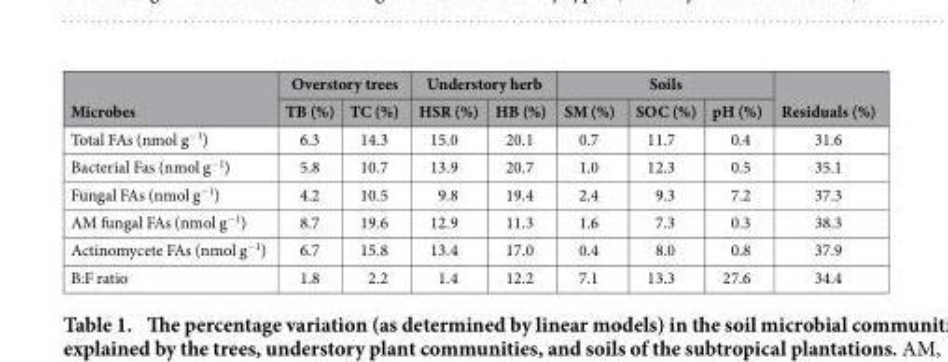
<table><thead><tr><td rowspan="2">Microbes</td><td colspan="2">Overstory trees</td><td colspan="2">Understory herb</td><td colspan="3">Soils</td><td rowspan="2">Residuals (%)</td></tr><tr><td>TB (%)</td><td>TC (%)</td><td>HSR (%)</td><td>HB (%)</td><td>SM (%)</td><td>SOC (%)</td><td>pH (%)</td></tr></thead><tbody><tr><td>Total FAs (nmol g<sup>−1</sup>)</td><td>6.3</td><td>14.3</td><td>15.0</td><td>20.1</td><td>0.7</td><td>11.7</td><td>0.4</td><td>31.6</td></tr><tr><td>Bacterial Fas (nmol g<sup>−1</sup>)</td><td>5.8</td><td>10.7</td><td>13.9</td><td>20.7</td><td>1.0</td><td>12.3</td><td>0.5</td><td>35.1</td></tr><tr><td>Fungal FAs (nmol g<sup>−1</sup>)</td><td>4.2</td><td>10.5</td><td>9.8</td><td>19.4</td><td>2.4</td><td>9.3</td><td>7.2</td><td>37.3</td></tr><tr><td>AM fungal FAs (nmol g<sup>−1</sup>)</td><td>8.7</td><td>19.6</td><td>12.9</td><td>11.3</td><td>1.6</td><td>7.3</td><td>0.3</td><td>38.3</td></tr><tr><td>Actinomycete FAs (nmol g<sup>−1</sup>)</td><td>6.7</td><td>15.8</td><td>13.4</td><td>17.0</td><td>0.4</td><td>8.0</td><td>0.8</td><td>37.9</td></tr><tr><td>B:F ratio</td><td>1.8</td><td>2.2</td><td>1.4</td><td>12.2</td><td>7.1</td><td>13.3</td><td>27.6</td><td>34.4</td></tr></tbody></table>